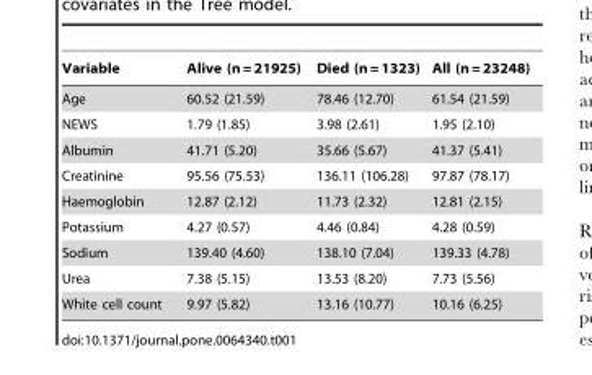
<table><thead><tr><td>Variable</td><td>Alive (n = 21925)</td><td>Died (n = 1323)</td><td>All (n = 23248)</td></tr></thead><tbody><tr><td>Age</td><td>60.52 (21.59)</td><td>78.46 (12.70)</td><td>61.54 (21.59)</td></tr><tr><td>NEWS</td><td>1.79 (1.85)</td><td>3.98 (2.61)</td><td>1.95 (2.10)</td></tr><tr><td>Albumin</td><td>41.71 (5.20)</td><td>35.66 (5.67)</td><td>41.37 (5.41)</td></tr><tr><td>Creatinine</td><td>95.56 (75.53)</td><td>136.11 (106.28)</td><td>97.87 (78.17)</td></tr><tr><td>Haemoglobin</td><td>12.87 (2.12)</td><td>11.73 (2.32)</td><td>12.81 (2.15)</td></tr><tr><td>Potassium</td><td>4.27 (0.57)</td><td>4.46 (0.84)</td><td>4.28 (0.59)</td></tr><tr><td>Sodium</td><td>139.40 (4.60)</td><td>138.10 (7.04)</td><td>139.33 (4.78)</td></tr><tr><td>Urea</td><td>7.38 (5.15)</td><td>13.53 (8.20)</td><td>7.73 (5.56)</td></tr><tr><td>White cell count</td><td>9.97 (5.82)</td><td>13.16 (10.77)</td><td>10.16 (6.25)</td></tr></tbody></table>